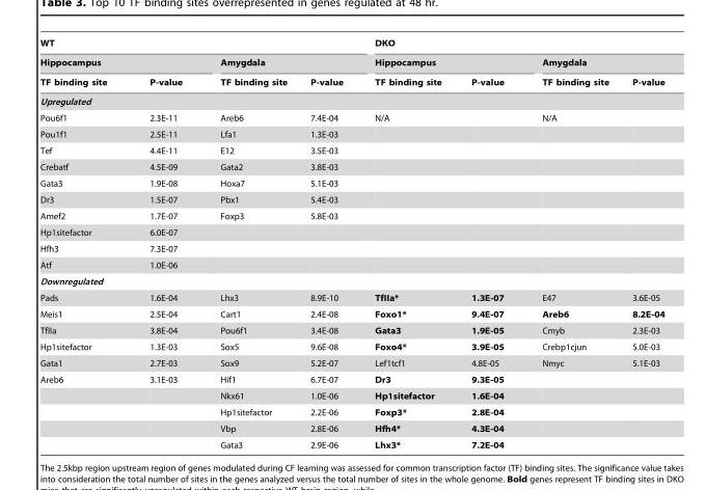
<table><thead><tr><td colspan="4">WT</td><td colspan="4">DKO</td></tr><tr><td colspan="2">Hippocampus</td><td colspan="2">Amygdala</td><td colspan="2">Hippocampus</td><td colspan="2">Amygdala</td></tr><tr><td>TF binding site</td><td>P-value</td><td>TF binding site</td><td>P-value</td><td>TF binding site</td><td>P-value</td><td>TF binding site</td><td>P-value</td></tr></thead><tbody><tr><td colspan="8">Upregulated</td></tr><tr><td>Pou6f1</td><td>2.3E-11</td><td>Areb6</td><td>7.4E-04</td><td>N/A</td><td></td><td>N/A</td><td></td></tr><tr><td>Pou1f1</td><td>2.5E-11</td><td>Lfa1</td><td>1.3E-03</td><td></td><td></td><td></td><td></td></tr><tr><td>Tef</td><td>4.4E-11</td><td>E12</td><td>3.5E-03</td><td></td><td></td><td></td><td></td></tr><tr><td>Crebatf</td><td>4.5E-09</td><td>Gata2</td><td>3.8E-03</td><td></td><td></td><td></td><td></td></tr><tr><td>Gata3</td><td>1.9E-08</td><td>Hoxa7</td><td>5.1E-03</td><td></td><td></td><td></td><td></td></tr><tr><td>Dr3</td><td>1.5E-07</td><td>Pbx1</td><td>5.4E-03</td><td></td><td></td><td></td><td></td></tr><tr><td>Amef2</td><td>1.7E-07</td><td>Foxp3</td><td>5.8E-03</td><td></td><td></td><td></td><td></td></tr><tr><td>Hp1sitefactor</td><td>6.0E-07</td><td></td><td></td><td></td><td></td><td></td><td></td></tr><tr><td>Hfh3</td><td>7.3E-07</td><td></td><td></td><td></td><td></td><td></td><td></td></tr><tr><td>Atf</td><td>1.0E-06</td><td></td><td></td><td></td><td></td><td></td><td></td></tr><tr><td colspan="8">Downregulated</td></tr><tr><td>Pads</td><td>1.6E-04</td><td>Lhx3</td><td>8.9E-10</td><td>TfIIa*</td><td>1.3E-07</td><td>E47</td><td>3.6E-05</td></tr><tr><td>Meis1</td><td>2.5E-04</td><td>Cart1</td><td>2.4E-08</td><td>Foxo1*</td><td>9.4E-07</td><td>Areb6</td><td>8.2E-04</td></tr><tr><td>TfIIa</td><td>3.8E-04</td><td>Pou6f1</td><td>3.4E-08</td><td>Gata3</td><td>1.9E-05</td><td>Cmyb</td><td>2.3E-03</td></tr><tr><td>Hp1sitefactor</td><td>1.3E-03</td><td>Sox5</td><td>9.6E-08</td><td>Foxo4*</td><td>3.9E-05</td><td>Crebp1cjun</td><td>5.0E-03</td></tr><tr><td>Gata1</td><td>2.7E-03</td><td>Sox9</td><td>5.2E-07</td><td>Lef1tcf1</td><td>4.8E-05</td><td>Nmyc</td><td>5.1E-03</td></tr><tr><td rowspan="5">Areb6</td><td>3.1E-03</td><td>Hif1</td><td>6.7E-07</td><td>Dr3</td><td>9.3E-05</td><td></td><td></td></tr><tr><td></td><td>Nkx61</td><td>1.0E-06</td><td>Hp1sitefactor</td><td>1.6E-04</td><td></td><td></td></tr><tr><td></td><td>Hp1sitefactor</td><td>2.2E-06</td><td>Foxp3*</td><td>2.8E-04</td><td></td><td></td></tr><tr><td></td><td>Vbp</td><td>2.8E-06</td><td>Hfh4*</td><td>4.3E-04</td><td></td><td></td></tr><tr><td></td><td>Gata3</td><td>2.9E-06</td><td>Lhx3*</td><td>7.2E-04</td><td></td><td></td></tr></tbody></table>